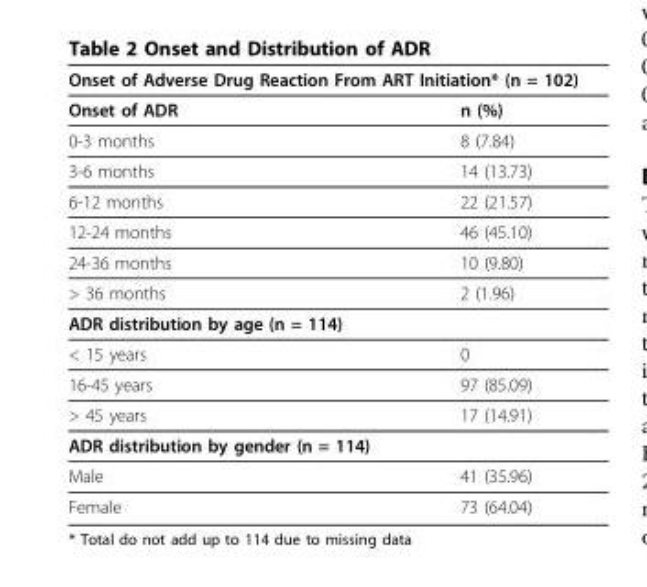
<table><thead><tr><td colspan="2">Onset of Adverse Drug Reaction From ART Initiation* (n = 102)</td></tr><tr><td>Onset of ADR</td><td>n (%)</td></tr></thead><tbody><tr><td>0-3 months</td><td>8 (7.84)</td></tr><tr><td>3-6 months</td><td>14 (13.73)</td></tr><tr><td>6-12 months</td><td>22 (21.57)</td></tr><tr><td>12-24 months</td><td>46 (45.10)</td></tr><tr><td>24-36 months</td><td>10 (9.80)</td></tr><tr><td>&gt; 36 months</td><td>2 (1.96)</td></tr><tr><td colspan="2">ADR distribution by age (n = 114)</td></tr><tr><td>&lt; 15 years</td><td>0</td></tr><tr><td>16-45 years</td><td>97 (85.09)</td></tr><tr><td>&gt; 45 years</td><td>17 (14.91)</td></tr><tr><td colspan="2">ADR distribution by gender (n = 114)</td></tr><tr><td>Male</td><td>41 (35.96)</td></tr><tr><td>Female</td><td>73 (64.04)</td></tr></tbody></table>